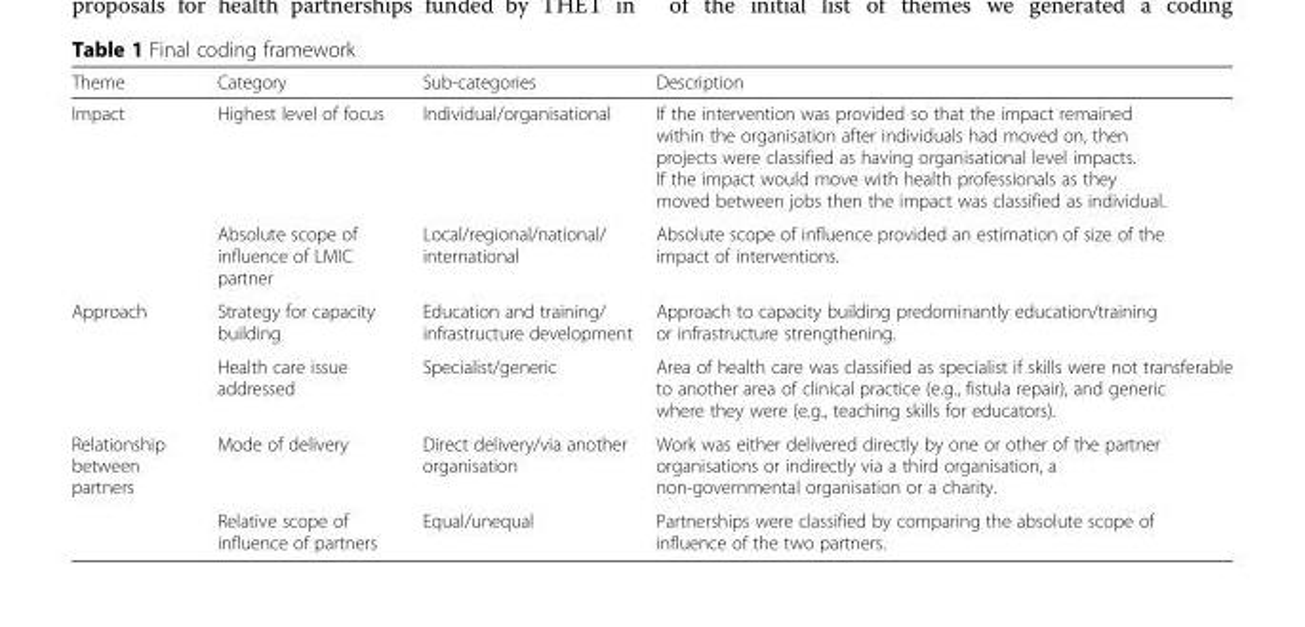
<table><thead><tr><td>Theme</td><td>Category</td><td>Sub-categories</td><td>Description</td></tr></thead><tbody><tr><td rowspan="2">Impact</td><td>Highest level of focus</td><td>Individual/organisational</td><td>If the intervention was provided so that the impact remained within the organisation after individuals had moved on, then projects were classified as having organisational level impacts. If the impact would move with health professionals as they moved between jobs then the impact was classified as individual.</td></tr><tr><td>Absolute scope of influence of LMIC partner</td><td>Local/regional/national/ international</td><td>Absolute scope of influence provided an estimation of size of the impact of interventions.</td></tr><tr><td rowspan="2">Approach</td><td>Strategy for capacity building</td><td>Education and training/ infrastructure development</td><td>Approach to capacity building predominantly education/training or infrastructure strengthening.</td></tr><tr><td>Health care issue addressed</td><td>Specialist/generic</td><td>Area of health care was classified as specialist if skills were not transferable to another area of clinical practice (e.g., fistula repair), and generic where they were (e.g., teaching skills for educators).</td></tr><tr><td rowspan="2">Relationship between partners</td><td>Mode of delivery</td><td>Direct delivery/via another organisation</td><td>Work was either delivered directly by one or other of the partner organisations or indirectly via a third organisation, a non-governmental organisation or a charity.</td></tr><tr><td>Relative scope of influence of partners</td><td>Equal/unequal</td><td>Partnerships were classified by comparing the absolute scope of influence of the two partners.</td></tr></tbody></table>